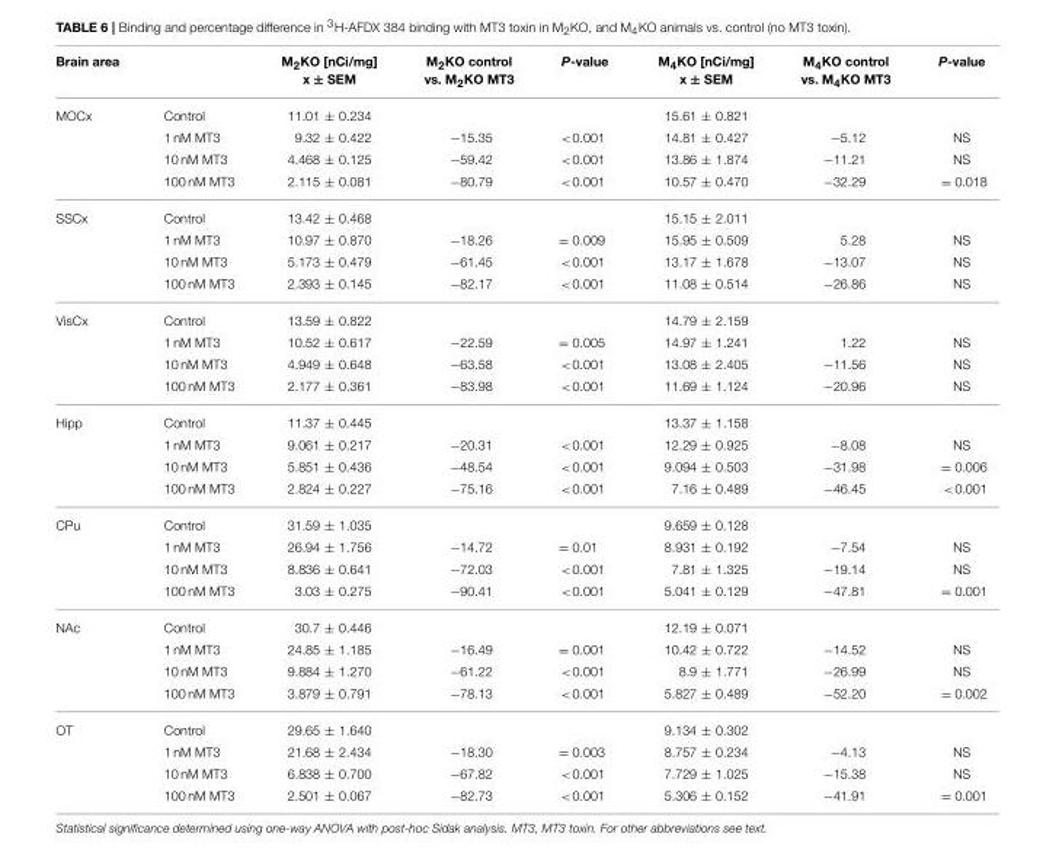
<table><thead><tr><td>Brain area</td><td></td><td>M<sub>2</sub>KO [nCi/mg] x ± SEM</td><td>M<sub>2</sub>KO control vs. M<sub>2</sub>KO MT3</td><td>P-value</td><td>M<sub>4</sub>KO [nCi/mg] x ± SEM</td><td>M<sub>4</sub>KO control vs. M<sub>4</sub>KO MT3</td><td>P-value</td></tr></thead><tbody><tr><td rowspan="4">MOCx</td><td>Control</td><td>11.01 ± 0.234</td><td></td><td></td><td>15.61 ± 0.821</td><td></td><td></td></tr><tr><td>1 nM MT3</td><td>9.32 ± 0.422</td><td>−15.35</td><td>&lt;0.001</td><td>14.81 ± 0.427</td><td>−5.12</td><td>NS</td></tr><tr><td>10 nM MT3</td><td>4.468 ± 0.125</td><td>−59.42</td><td>&lt;0.001</td><td>13.86 ± 1.874</td><td>−11.21</td><td>NS</td></tr><tr><td>100 nM MT3</td><td>2.115 ± 0.081</td><td>−80.79</td><td>&lt;0.001</td><td>10.57 ± 0.470</td><td>−32.29</td><td>= 0.018</td></tr><tr><td rowspan="4">SSCx</td><td>Control</td><td>13.42 ± 0.468</td><td></td><td></td><td>15.15 ± 2.011</td><td></td><td></td></tr><tr><td>1 nM MT3</td><td>10.97 ± 0.870</td><td>−18.26</td><td>= 0.009</td><td>15.95 ± 0.509</td><td>5.28</td><td>NS</td></tr><tr><td>10 nM MT3</td><td>5.173 ± 0.479</td><td>−61.45</td><td>&lt;0.001</td><td>13.17 ± 1.678</td><td>−13.07</td><td>NS</td></tr><tr><td>100 nM MT3</td><td>2.393 ± 0.145</td><td>−82.17</td><td>&lt;0.001</td><td>11.08 ± 0.514</td><td>−26.86</td><td>NS</td></tr><tr><td rowspan="4">VisCx</td><td>Control</td><td>13.59 ± 0.822</td><td></td><td></td><td>14.79 ± 2.159</td><td></td><td></td></tr><tr><td>1 nM MT3</td><td>10.52 ± 0.617</td><td>−22.59</td><td>= 0.005</td><td>14.97 ± 1.241</td><td>1.22</td><td>NS</td></tr><tr><td>10 nM MT3</td><td>4.949 ± 0.648</td><td>−63.58</td><td>&lt;0.001</td><td>13.08 ± 2.405</td><td>−11.56</td><td>NS</td></tr><tr><td>100 nM MT3</td><td>2.177 ± 0.361</td><td>−83.98</td><td>&lt;0.001</td><td>11.69 ± 1.124</td><td>−20.96</td><td>NS</td></tr><tr><td rowspan="4">Hipp</td><td>Control</td><td>11.37 ± 0.445</td><td></td><td></td><td>13.37 ± 1.158</td><td></td><td></td></tr><tr><td>1 nM MT3</td><td>9.061 ± 0.217</td><td>−20.31</td><td>&lt;0.001</td><td>12.29 ± 0.925</td><td>−8.08</td><td>NS</td></tr><tr><td>10 nM MT3</td><td>5.851 ± 0.436</td><td>−48.54</td><td>&lt;0.001</td><td>9.094 ± 0.503</td><td>−31.98</td><td>= 0.006</td></tr><tr><td>100 nM MT3</td><td>2.824 ± 0.227</td><td>−75.16</td><td>&lt;0.001</td><td>7.16 ± 0.489</td><td>−46.45</td><td>&lt;0.001</td></tr><tr><td rowspan="4">CPu</td><td>Control</td><td>31.59 ± 1.035</td><td></td><td></td><td>9.659 ± 0.128</td><td></td><td></td></tr><tr><td>1 nM MT3</td><td>26.94 ± 1.756</td><td>−14.72</td><td>= 0.01</td><td>8.931 ± 0.192</td><td>−7.54</td><td>NS</td></tr><tr><td>10 nM MT3</td><td>8.836 ± 0.641</td><td>−72.03</td><td>&lt;0.001</td><td>7.81 ± 1.325</td><td>−19.14</td><td>NS</td></tr><tr><td>100 nM MT3</td><td>3.03 ± 0.275</td><td>−90.41</td><td>&lt;0.001</td><td>5.041 ± 0.129</td><td>−47.81</td><td>= 0.001</td></tr><tr><td rowspan="4">NAc</td><td>Control</td><td>30.7 ± 0.446</td><td></td><td></td><td>12.19 ± 0.071</td><td></td><td></td></tr><tr><td>1 nM MT3</td><td>24.85 ± 1.185</td><td>−16.49</td><td>= 0.001</td><td>10.42 ± 0.722</td><td>−14.52</td><td>NS</td></tr><tr><td>10 nM MT3</td><td>9.884 ± 1.270</td><td>−61.22</td><td>&lt;0.001</td><td>8.9 ± 1.771</td><td>−26.99</td><td>NS</td></tr><tr><td>100 nM MT3</td><td>3.879 ± 0.791</td><td>−78.13</td><td>&lt;0.001</td><td>5.827 ± 0.489</td><td>−52.20</td><td>= 0.002</td></tr><tr><td rowspan="4">OT</td><td>Control</td><td>29.65 ± 1.640</td><td></td><td></td><td>9.134 ± 0.302</td><td></td><td></td></tr><tr><td>1 nM MT3</td><td>21.68 ± 2.434</td><td>−18.30</td><td>= 0.003</td><td>8.757 ± 0.234</td><td>−4.13</td><td>NS</td></tr><tr><td>10 nM MT3</td><td>6.838 ± 0.700</td><td>−67.82</td><td>&lt;0.001</td><td>7.729 ± 1.025</td><td>−15.38</td><td>NS</td></tr><tr><td>100 nM MT3</td><td>2.501 ± 0.067</td><td>−82.73</td><td>&lt;0.001</td><td>5.306 ± 0.152</td><td>−41.91</td><td>= 0.001</td></tr></tbody></table>